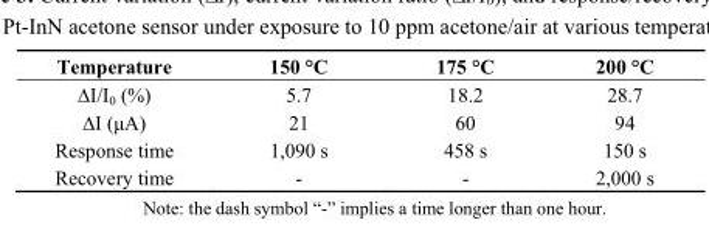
<table><thead><tr><td>Temperature</td><td>150 °C</td><td>175 °C</td><td>200 °C</td></tr></thead><tbody><tr><td>∆I/I0 (%)</td><td>5.7</td><td>18.2</td><td>28.7</td></tr><tr><td>∆I (μA)</td><td>21</td><td>60</td><td>94</td></tr><tr><td>Response time</td><td>1,090 s</td><td>458 s</td><td>150 s</td></tr><tr><td>Recovery time</td><td>-</td><td>-</td><td>2,000 s</td></tr></tbody></table>